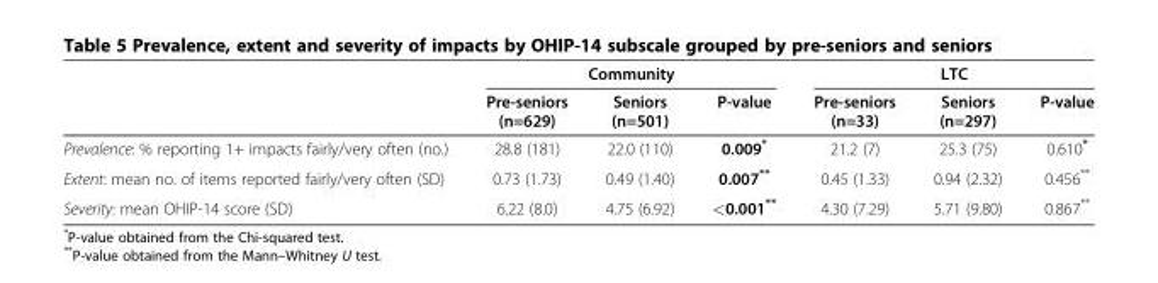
<table><thead><tr><td rowspan="2"></td><td colspan="3">Community</td><td colspan="3">LTC</td></tr><tr><td>Pre-seniors (n=629)</td><td>Seniors (n=501)</td><td>P-value</td><td>Pre-seniors (n=33)</td><td>Seniors (n=297)</td><td>P-value</td></tr></thead><tbody><tr><td>Prevalence: % reporting 1+ impacts fairly/very often (no.)</td><td>28.8 (181)</td><td>22.0 (110)</td><td>0.009*</td><td>21.2 (7)</td><td>25.3 (75)</td><td>0.610*</td></tr><tr><td>Extent: mean no. of items reported fairly/very often (SD)</td><td>0.73 (1.73)</td><td>0.49 (1.40)</td><td>0.007**</td><td>0.45 (1.33)</td><td>0.94 (2.32)</td><td>0.456**</td></tr><tr><td>Severity: mean OHIP-14 score (SD)</td><td>6.22 (8.0)</td><td>4.75 (6.92)</td><td>&lt;0.001**</td><td>4.30 (7.29)</td><td>5.71 (9.80)</td><td>0.867**</td></tr></tbody></table>